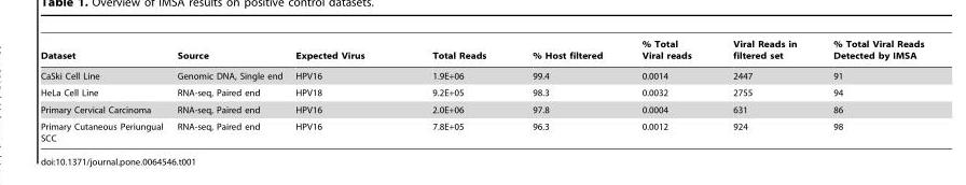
<table><thead><tr><td>Dataset</td><td>Source</td><td>Expected Virus</td><td>Total Reads</td><td>% Host filtered</td><td>% Total Viral reads</td><td>Viral Reads in filtered set</td><td>% Total Viral Reads Detected by IMSA</td></tr></thead><tbody><tr><td>CaSki Cell Line</td><td>Genomic DNA, Single end</td><td>HPV16</td><td>1.9E+06</td><td>99.4</td><td>0.0014</td><td>2447</td><td>91</td></tr><tr><td>HeLa Cell Line</td><td>RNA-seq, Paired end</td><td>HPV18</td><td>9.2E+05</td><td>98.3</td><td>0.0032</td><td>2755</td><td>94</td></tr><tr><td>Primary Cervical Carcinoma</td><td>RNA-seq, Paired end</td><td>HPV16</td><td>2.0E+06</td><td>97.8</td><td>0.0004</td><td>631</td><td>86</td></tr><tr><td>Primary Cutaneous Periungual SCC</td><td>RNA-seq, Paired end</td><td>HPV16</td><td>7.8E+05</td><td>96.3</td><td>0.0012</td><td>924</td><td>98</td></tr></tbody></table>